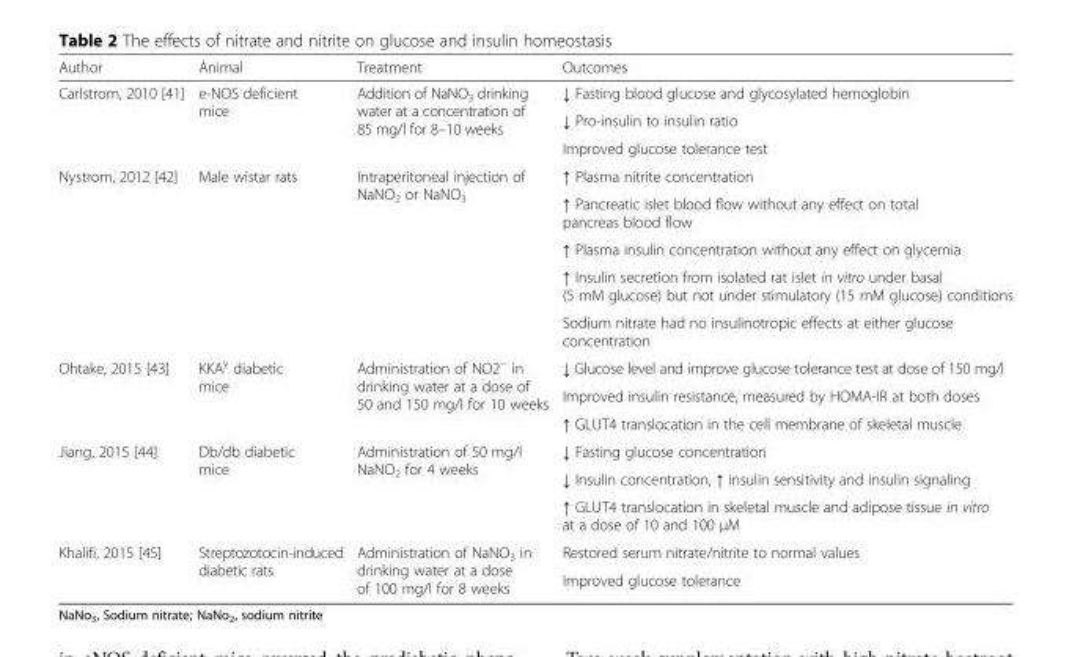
<table><thead><tr><td>Author</td><td>Animal</td><td>Treatment</td><td>Outcomes</td></tr></thead><tbody><tr><td rowspan="3">Carlstrom, 2010 [41]</td><td rowspan="3">e-NOS deficient mice</td><td rowspan="3">Addition of NaNO<sub>3</sub> drinking water at a concentration of 85 mg/l for 8–10 weeks</td><td>↓ Fasting blood glucose and glycosylated hemoglobin</td></tr><tr><td>↓ Pro-insulin to insulin ratio</td></tr><tr><td>Improved glucose tolerance test</td></tr><tr><td rowspan="5">Nystrom, 2012 [42]</td><td rowspan="5">Male wistar rats</td><td rowspan="5">Intraperitoneal injection of NaNO<sub>2</sub> or NaNO<sub>3</sub></td><td>↑ Plasma nitrite concentration</td></tr><tr><td>↑ Pancreatic islet blood flow without any effect on total pancreas blood flow</td></tr><tr><td>↑ Plasma insulin concentration without any effect on glycemia</td></tr><tr><td>↑ Insulin secretion from isolated rat islet in vitro under basal (5 mM glucose) but not under stimulatory (15 mM glucose) conditions</td></tr><tr><td>Sodium nitrate had no insulinotropic effects at either glucose concentration</td></tr><tr><td rowspan="3">Ohtake, 2015 [43]</td><td rowspan="3">KKA<sup>y</sup> diabetic mice</td><td rowspan="3">Administration of NO2<sup>−</sup> in drinking water at a dose of 50 and 150 mg/l for 10 weeks</td><td>↓ Glucose level and improve glucose tolerance test at dose of 150 mg/l</td></tr><tr><td>Improved insulin resistance, measured by HOMA-IR at both doses</td></tr><tr><td>↑ GLUT4 translocation in the cell membrane of skeletal muscle</td></tr><tr><td rowspan="3">Jiang, 2015 [44]</td><td rowspan="3">Db/db diabetic mice</td><td rowspan="3">Administration of 50 mg/l NaNO<sub>2</sub> for 4 weeks</td><td>↓ Fasting glucose concentration</td></tr><tr><td>↓ Insulin concentration, ↑ insulin sensitivity and insulin signaling</td></tr><tr><td>↑ GLUT4 translocation in skeletal muscle and adipose tissue in vitro at a dose of 10 and 100 μM</td></tr><tr><td rowspan="2">Khalifi, 2015 [45]</td><td rowspan="2">Streptozotocin-induced diabetic rats</td><td rowspan="2">Administration of NaNO<sub>3</sub> in drinking water at a dose of 100 mg/l for 8 weeks</td><td>Restored serum nitrate/nitrite to normal values</td></tr><tr><td>Improved glucose tolerance</td></tr></tbody></table>